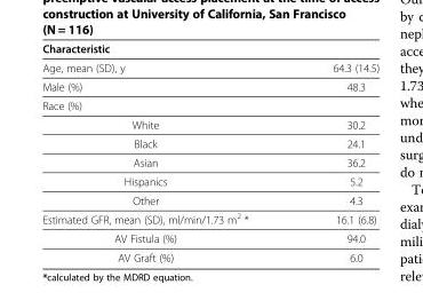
<table><thead><tr><td colspan="2">Characteristic</td></tr><tr><td>Age, mean (SD), y</td><td>64.3 (14.5)</td></tr></thead><tbody><tr><td>Male (%)</td><td>48.3</td></tr><tr><td colspan="2">Race (%)</td></tr><tr><td>White</td><td>30.2</td></tr><tr><td>Black</td><td>24.1</td></tr><tr><td>Asian</td><td>36.2</td></tr><tr><td>Hispanics</td><td>5.2</td></tr><tr><td>Other</td><td>4.3</td></tr><tr><td>Estimated GFR, mean (SD), ml/min/1.73 m<sup>2</sup> *</td><td>16.1 (6.8)</td></tr><tr><td>AV Fistula (%)</td><td>94.0</td></tr><tr><td>AV Graft (%)</td><td>6.0</td></tr></tbody></table>